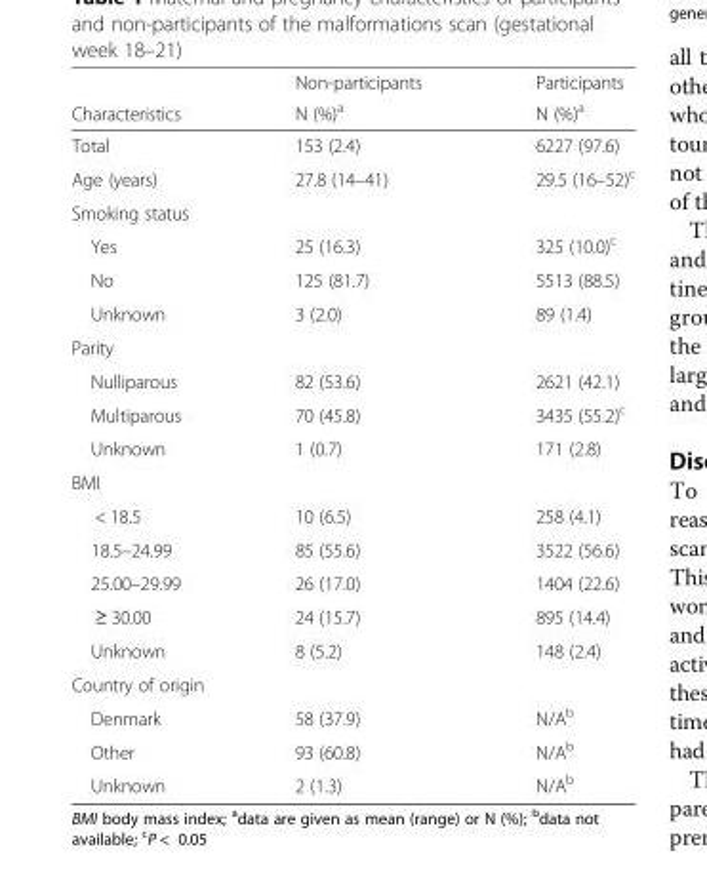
<table><thead><tr><td rowspan="2">Characteristics</td><td rowspan="2">Non-participants N (%)<sup>a</sup></td><td rowspan="2">Participants N (%)<sup>a</sup></td></tr><tr></tr></thead><tbody><tr><td>Total</td><td>153 (2.4)</td><td>6227 (97.6)</td></tr><tr><td>Age (years)</td><td>27.8 (14–41)</td><td>29.5 (16–52)<sup>c</sup></td></tr><tr><td colspan="3">Smoking status</td></tr><tr><td>Yes</td><td>25 (16.3)</td><td>325 (10.0)<sup>c</sup></td></tr><tr><td>No</td><td>125 (81.7)</td><td>5513 (88.5)</td></tr><tr><td>Unknown</td><td>3 (2.0)</td><td>89 (1.4)</td></tr><tr><td colspan="3">Parity</td></tr><tr><td>Nulliparous</td><td>82 (53.6)</td><td>2621 (42.1)</td></tr><tr><td>Multiparous</td><td>70 (45.8)</td><td>3435 (55.2)<sup>c</sup></td></tr><tr><td>Unknown</td><td>1 (0.7)</td><td>171 (2.8)</td></tr><tr><td colspan="3">BMI</td></tr><tr><td>&lt; 18.5</td><td>10 (6.5)</td><td>258 (4.1)</td></tr><tr><td>18.5–24.99</td><td>85 (55.6)</td><td>3522 (56.6)</td></tr><tr><td>25.00–29.99</td><td>26 (17.0)</td><td>1404 (22.6)</td></tr><tr><td>≥ 30.00</td><td>24 (15.7)</td><td>895 (14.4)</td></tr><tr><td>Unknown</td><td>8 (5.2)</td><td>148 (2.4)</td></tr><tr><td colspan="3">Country of origin</td></tr><tr><td>Denmark</td><td>58 (37.9)</td><td>N/A<sup>b</sup></td></tr><tr><td>Other</td><td>93 (60.8)</td><td>N/A<sup>b</sup></td></tr><tr><td>Unknown</td><td>2 (1.3)</td><td>N/A<sup>b</sup></td></tr></tbody></table>